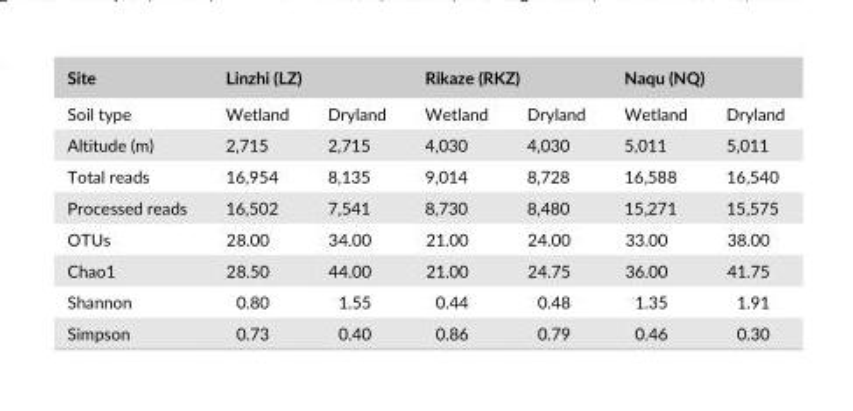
<table><thead><tr><td rowspan="2">Site Soil type</td><td colspan="2">Linzhi (LZ)</td><td colspan="2">Rikaze (RKZ)</td><td colspan="2">Naqu (NQ)</td></tr><tr><td>Wetland</td><td>Dryland</td><td>Wetland</td><td>Dryland</td><td>Wetland</td><td>Dryland</td></tr></thead><tbody><tr><td>Altitude (m)</td><td>2,715</td><td>2,715</td><td>4,030</td><td>4,030</td><td>5,011</td><td>5,011</td></tr><tr><td>Total reads</td><td>16,954</td><td>8,135</td><td>9,014</td><td>8,728</td><td>16,588</td><td>16,540</td></tr><tr><td>Processed reads</td><td>16,502</td><td>7,541</td><td>8,730</td><td>8,480</td><td>15,271</td><td>15,575</td></tr><tr><td>OTUs</td><td>28.00</td><td>34.00</td><td>21.00</td><td>24.00</td><td>33.00</td><td>38.00</td></tr><tr><td>Chao1</td><td>28.50</td><td>44.00</td><td>21.00</td><td>24.75</td><td>36.00</td><td>41.75</td></tr><tr><td>Shannon</td><td>0.80</td><td>1.55</td><td>0.44</td><td>0.48</td><td>1.35</td><td>1.91</td></tr><tr><td>Simpson</td><td>0.73</td><td>0.40</td><td>0.86</td><td>0.79</td><td>0.46</td><td>0.30</td></tr></tbody></table>